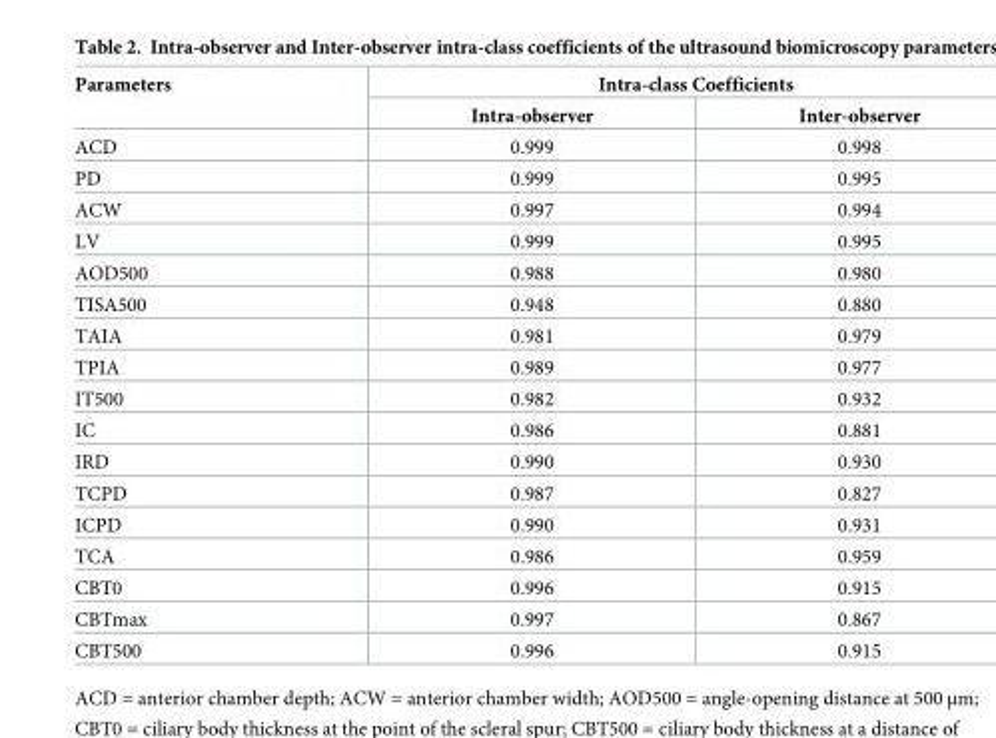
<table><thead><tr><td rowspan="2">Parameters</td><td colspan="2">Intra-class Coefficients</td></tr><tr><td>Intra-observer</td><td>Inter-observer</td></tr></thead><tbody><tr><td>ACD</td><td>0.999</td><td>0.998</td></tr><tr><td>PD</td><td>0.999</td><td>0.995</td></tr><tr><td>ACW</td><td>0.997</td><td>0.994</td></tr><tr><td>LV</td><td>0.999</td><td>0.995</td></tr><tr><td>AOD500</td><td>0.988</td><td>0.980</td></tr><tr><td>TISA500</td><td>0.948</td><td>0.880</td></tr><tr><td>TAIA</td><td>0.981</td><td>0.979</td></tr><tr><td>TPIA</td><td>0.989</td><td>0.977</td></tr><tr><td>IT500</td><td>0.982</td><td>0.932</td></tr><tr><td>IC</td><td>0.986</td><td>0.881</td></tr><tr><td>IRD</td><td>0.990</td><td>0.930</td></tr><tr><td>TCPD</td><td>0.987</td><td>0.827</td></tr><tr><td>ICPD</td><td>0.990</td><td>0.931</td></tr><tr><td>TCA</td><td>0.986</td><td>0.959</td></tr><tr><td>CBT0</td><td>0.996</td><td>0.915</td></tr><tr><td>CBTmax</td><td>0.997</td><td>0.867</td></tr><tr><td>CBT500</td><td>0.996</td><td>0.915</td></tr></tbody></table>